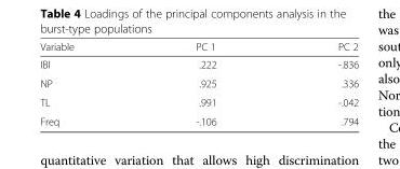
<table><thead><tr><td>Variable</td><td>PC 1</td><td>PC 2</td></tr></thead><tbody><tr><td>IBI</td><td>.222</td><td>-.836</td></tr><tr><td>NP</td><td>.925</td><td>.336</td></tr><tr><td>TL</td><td>.991</td><td>-.042</td></tr><tr><td>Freq</td><td>-.106</td><td>.794</td></tr></tbody></table>